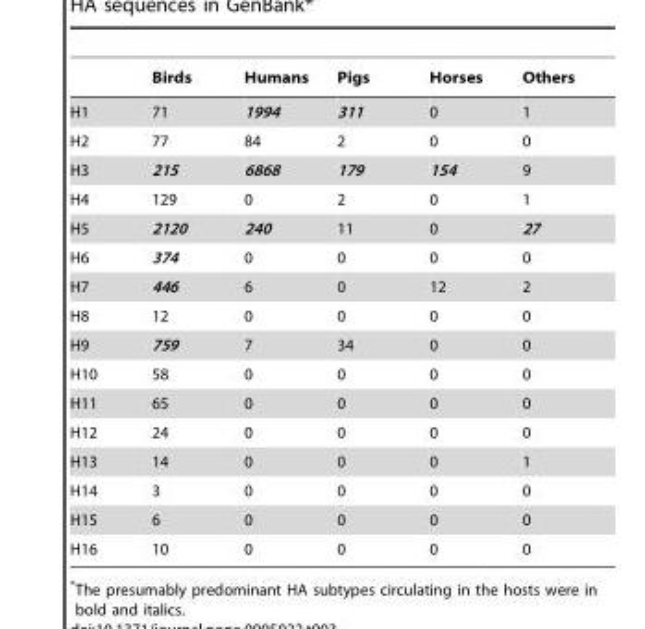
<table><thead><tr><td></td><td>Birds</td><td>Humans</td><td>Pigs</td><td>Horses</td><td>Others</td></tr></thead><tbody><tr><td>H1</td><td>71</td><td>1994</td><td>311</td><td>0</td><td>1</td></tr><tr><td>H2</td><td>77</td><td>84</td><td>2</td><td>0</td><td>0</td></tr><tr><td>H3</td><td>215</td><td>6868</td><td>179</td><td>154</td><td>9</td></tr><tr><td>H4</td><td>129</td><td>0</td><td>2</td><td>0</td><td>1</td></tr><tr><td>H5</td><td>2120</td><td>240</td><td>11</td><td>0</td><td>27</td></tr><tr><td>H6</td><td>374</td><td>0</td><td>0</td><td>0</td><td>0</td></tr><tr><td>H7</td><td>446</td><td>6</td><td>0</td><td>12</td><td>2</td></tr><tr><td>H8</td><td>12</td><td>0</td><td>0</td><td>0</td><td>0</td></tr><tr><td>H9</td><td>759</td><td>7</td><td>34</td><td>0</td><td>0</td></tr><tr><td>H10</td><td>58</td><td>0</td><td>0</td><td>0</td><td>0</td></tr><tr><td>H11</td><td>65</td><td>0</td><td>0</td><td>0</td><td>0</td></tr><tr><td>H12</td><td>24</td><td>0</td><td>0</td><td>0</td><td>0</td></tr><tr><td>H13</td><td>14</td><td>0</td><td>0</td><td>0</td><td>1</td></tr><tr><td>H14</td><td>3</td><td>0</td><td>0</td><td>0</td><td>0</td></tr><tr><td>H15</td><td>6</td><td>0</td><td>0</td><td>0</td><td>0</td></tr><tr><td>H16</td><td>10</td><td>0</td><td>0</td><td>0</td><td>0</td></tr></tbody></table>